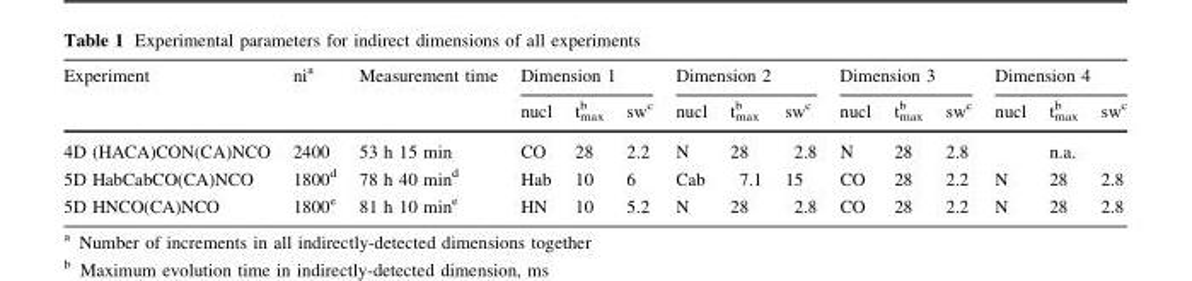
<table><thead><tr><td rowspan="2">Experiment</td><td rowspan="2">ni<sup>a</sup></td><td rowspan="2">Measurement time</td><td colspan="3">Dimension 1</td><td colspan="3">Dimension 2</td><td colspan="3">Dimension 3</td><td colspan="3">Dimension 4</td></tr><tr><td>nucl</td><td>t<sub>max</sub> <sup>b</sup></td><td>sw<sup>c</sup></td><td>nucl</td><td>t<sub>max</sub> <sup>b</sup></td><td>sw<sup>c</sup></td><td>nucl</td><td>t<sub>max</sub> <sup>b</sup></td><td>sw<sup>c</sup></td><td>nucl</td><td>t<sub>max</sub> <sup>b</sup></td><td>sw<sup>c</sup></td></tr></thead><tbody><tr><td>4D (HACA)CON(CA)NCO</td><td>2400</td><td>53 h 15 min</td><td>CO</td><td>28</td><td>2.2</td><td>N</td><td>28</td><td>2.8</td><td>N</td><td>28</td><td>2.8</td><td></td><td>n.a.</td><td></td></tr><tr><td>5D HabCabCO(CA)NCO</td><td>1800<sup>d</sup></td><td>78 h 40 min<sup>d</sup></td><td>Hab</td><td>10</td><td>6</td><td>Cab</td><td>7.1</td><td>15</td><td>CO</td><td>28</td><td>2.2</td><td>N</td><td>28</td><td>2.8</td></tr><tr><td>5D HNCO(CA)NCO</td><td>1800<sup>e</sup></td><td>81 h 10 min<sup>e</sup></td><td>HN</td><td>10</td><td>5.2</td><td>N</td><td>28</td><td>2.8</td><td>CO</td><td>28</td><td>2.2</td><td>N</td><td>28</td><td>2.8</td></tr></tbody></table>